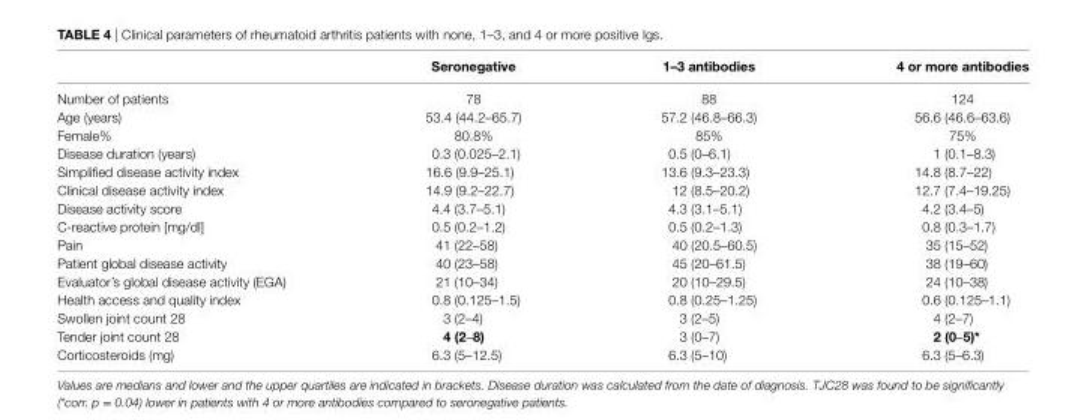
<table><thead><tr><td></td><td>seronegative</td><td>1–3 antibodies</td><td>4 or more antibodies</td></tr></thead><tbody><tr><td>Number of patients</td><td>78</td><td>88</td><td>124</td></tr><tr><td>Age (years)</td><td>53.4 (44.2–65.7)</td><td>57.2 (46.8–66.3)</td><td>56.6 (46.6–63.6)</td></tr><tr><td>Female%</td><td>80.8%</td><td>85%</td><td>75%</td></tr><tr><td>Disease duration (years)</td><td>0.3 (0.025–2.1)</td><td>0.5 (0–6.1)</td><td>1 (0.1–8.3)</td></tr><tr><td>Simplified disease activity index</td><td>16.6 (9.9–25.1)</td><td>13.6 (9.3–23.3)</td><td>14.8 (8.7–22)</td></tr><tr><td>Clinical disease activity index</td><td>14.9 (9.2–22.7)</td><td>12 (8.5–20.2)</td><td>12.7 (7.4–19.25)</td></tr><tr><td>Disease activity score</td><td>4.4 (3.7–5.1)</td><td>4.3 (3.1–5.1)</td><td>4.2 (3.4–5)</td></tr><tr><td>C-reactive protein [mg/dl]</td><td>0.5 (0.2–1.2)</td><td>0.5 (0.2–1.3)</td><td>0.8 (0.3–1.7)</td></tr><tr><td>Pain</td><td>41 (22–58)</td><td>40 (20.5–60.5)</td><td>35 (15–52)</td></tr><tr><td>Patient global disease activity</td><td>40 (23–58)</td><td>45 (20–61.5)</td><td>38 (19–60)</td></tr><tr><td>Evaluator’s global disease activity (EGA)</td><td>21 (10–34)</td><td>20 (10–29.5)</td><td>24 (10–38)</td></tr><tr><td>Health access and quality index</td><td>0.8 (0.125–1.5)</td><td>0.8 (0.25–1.25)</td><td>0.6 (0.125–1.1)</td></tr><tr><td>Swollen joint count 28</td><td>3 (2–4)</td><td>3 (2–5)</td><td>4 (2–7)</td></tr><tr><td>Tender joint count 28</td><td>4 (2–8)</td><td>3 (0–7)</td><td>2 (0–5)*</td></tr><tr><td>Corticosteroids (mg)</td><td>6.3 (5–12.5)</td><td>6.3 (5–10)</td><td>6.3 (5–6.3)</td></tr></tbody></table>